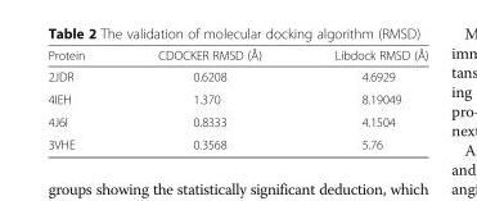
<table><thead><tr><td>Protein</td><td>CDOCKER RMSD (Å)</td><td>Libdock RMSD (Å)</td></tr></thead><tbody><tr><td>2JDR</td><td>0.6208</td><td>4.6929</td></tr><tr><td>4IEH</td><td>1.370</td><td>8.19049</td></tr><tr><td>4J6I</td><td>0.8333</td><td>4.1504</td></tr><tr><td>3VHE</td><td>0.3568</td><td>5.76</td></tr></tbody></table>